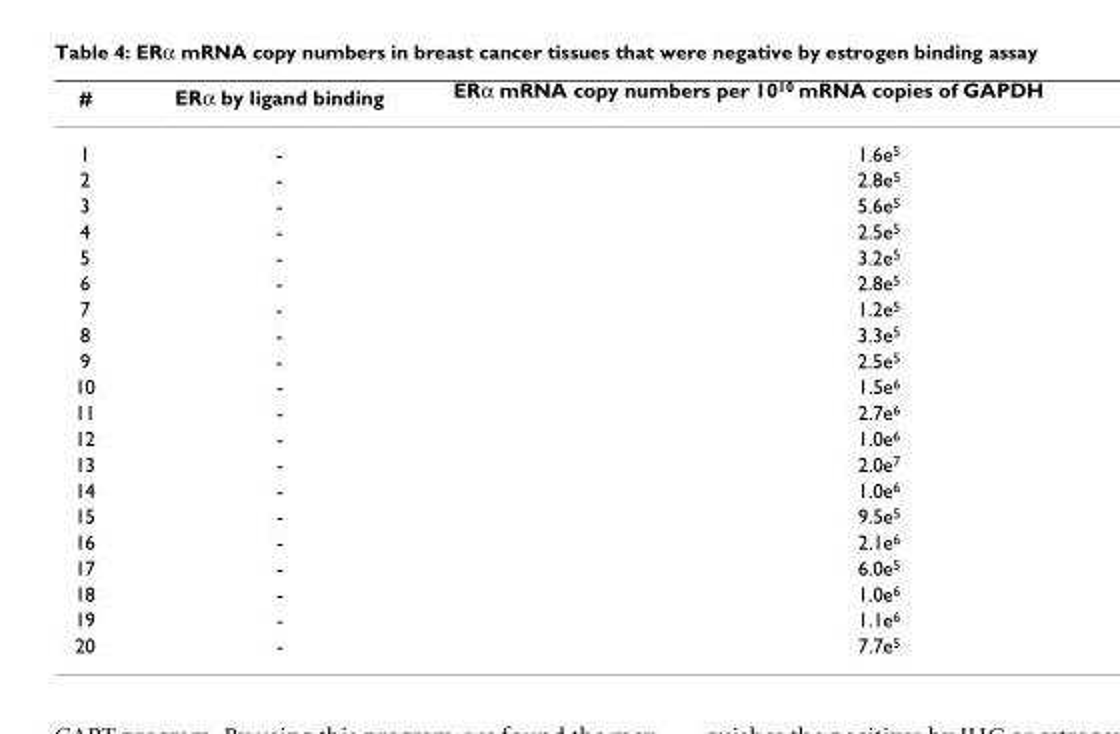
<table><thead><tr><td>#</td><td>ERα by ligand binding</td><td>ERα mRNA copy numbers per 1010 mRNA copies of GAPDH</td></tr></thead><tbody><tr><td>1</td><td>-</td><td>1.6e5</td></tr><tr><td>2</td><td>-</td><td>2.8e5</td></tr><tr><td>3</td><td>-</td><td>5.6e5</td></tr><tr><td>4</td><td>-</td><td>2.5e5</td></tr><tr><td>5</td><td>-</td><td>3.2e5</td></tr><tr><td>6</td><td>-</td><td>2.8e5</td></tr><tr><td>7</td><td>-</td><td>1.2e5</td></tr><tr><td>8</td><td>-</td><td>3.3e5</td></tr><tr><td>9</td><td>-</td><td>2.5e5</td></tr><tr><td>10</td><td>-</td><td>1.5e6</td></tr><tr><td>11</td><td>-</td><td>2.7e6</td></tr><tr><td>12</td><td>-</td><td>1.0e6</td></tr><tr><td>13</td><td>-</td><td>2.0e7</td></tr><tr><td>14</td><td>-</td><td>1.0e6</td></tr><tr><td>15</td><td>-</td><td>9.5e5</td></tr><tr><td>16</td><td>-</td><td>2.1e6</td></tr><tr><td>17</td><td>-</td><td>6.0e5</td></tr><tr><td>18</td><td>-</td><td>1.0e6</td></tr><tr><td>19</td><td>-</td><td>1.1e6</td></tr><tr><td>20</td><td>-</td><td>7.7e5</td></tr></tbody></table>